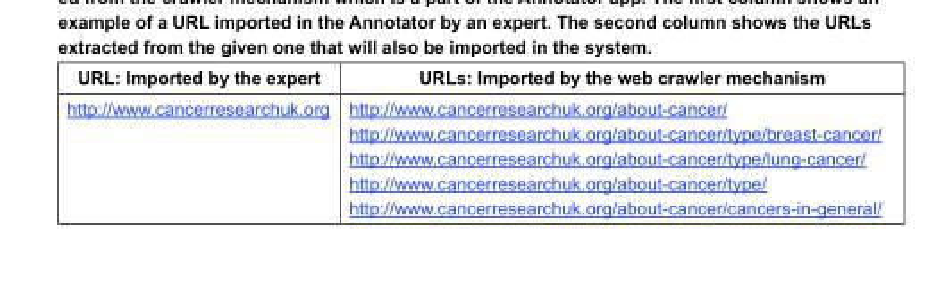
<table><thead><tr><td>URL: Imported by the expert</td><td>URLs: Imported by the web crawler mechanism</td></tr></thead><tbody><tr><td>http://www.cancerresearchuk.org</td><td>http://www.cancerresearchuk.org/about-cancer/ http://www.cancerresearchuk.org/about-cancer/type/breast-cancer/ http://www.cancerresearchuk.org/about-cancer/type/lung-cancer/ http://www.cancerresearchuk.org/about-cancer/type/ http://www.cancerresearchuk.org/about-cancer/cancers-in-general/</td></tr></tbody></table>